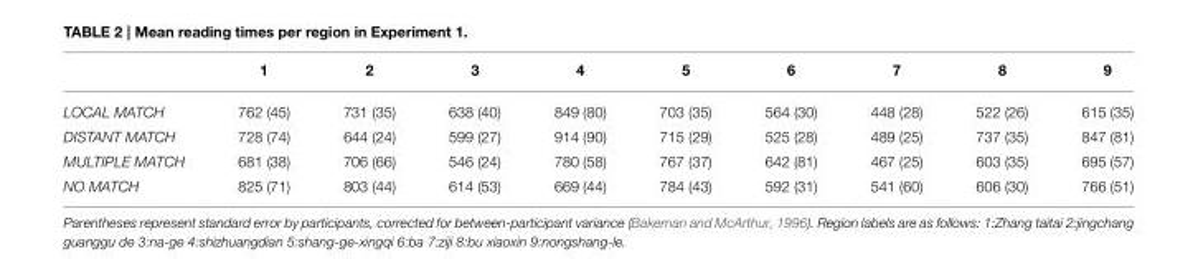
<table><thead><tr><td></td><td>1</td><td>2</td><td>3</td><td>4</td><td>5</td><td>6</td><td>7</td><td>8</td><td>9</td></tr></thead><tbody><tr><td>LOCAL MATCH</td><td>762 (45)</td><td>731 (35)</td><td>638 (40)</td><td>849 (80)</td><td>703 (35)</td><td>564 (30)</td><td>448 (28)</td><td>522 (26)</td><td>615 (35)</td></tr><tr><td>DISTANT MATCH</td><td>728 (74)</td><td>644 (24)</td><td>599 (27)</td><td>914 (90)</td><td>715 (29)</td><td>525 (28)</td><td>489 (25)</td><td>737 (35)</td><td>847 (81)</td></tr><tr><td>MULTIPLE MATCH</td><td>681 (38)</td><td>706 (66)</td><td>546 (24)</td><td>780 (58)</td><td>767 (37)</td><td>642 (81)</td><td>467 (25)</td><td>603 (35)</td><td>695 (57)</td></tr><tr><td>NO MATCH</td><td>825 (71)</td><td>803 (44)</td><td>614 (53)</td><td>669 (44)</td><td>784 (43)</td><td>592 (31)</td><td>541 (60)</td><td>606 (30)</td><td>766 (51)</td></tr></tbody></table>